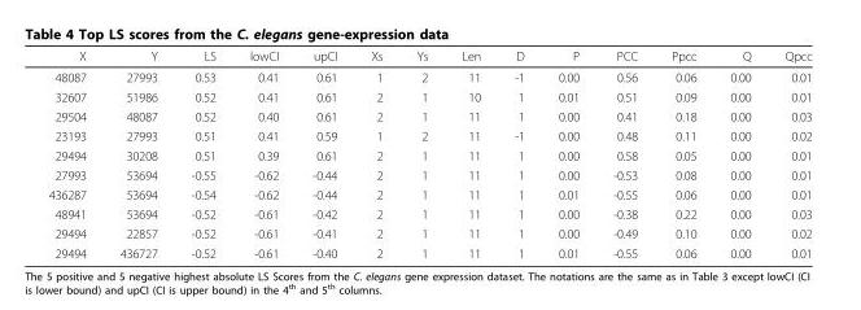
<table><thead><tr><td>X</td><td>Y</td><td>LS</td><td>lowCI</td><td>upCI</td><td>Xs</td><td>Ys</td><td>Len</td><td>D</td><td>P</td><td>PCC</td><td>Ppcc</td><td>Q</td><td>Qpcc</td></tr></thead><tbody><tr><td>48087</td><td>27993</td><td>0.53</td><td>0.41</td><td>0.61</td><td>1</td><td>2</td><td>11</td><td>-1</td><td>0.00</td><td>0.56</td><td>0.06</td><td>0.00</td><td>0.01</td></tr><tr><td>32607</td><td>51986</td><td>0.52</td><td>0.41</td><td>0.61</td><td>2</td><td>1</td><td>10</td><td>1</td><td>0.01</td><td>0.51</td><td>0.09</td><td>0.00</td><td>0.01</td></tr><tr><td>29504</td><td>48087</td><td>0.52</td><td>0.40</td><td>0.61</td><td>2</td><td>1</td><td>11</td><td>1</td><td>0.00</td><td>0.41</td><td>0.18</td><td>0.00</td><td>0.03</td></tr><tr><td>23193</td><td>27993</td><td>0.51</td><td>0.41</td><td>0.59</td><td>1</td><td>2</td><td>11</td><td>-1</td><td>0.00</td><td>0.48</td><td>0.11</td><td>0.00</td><td>0.02</td></tr><tr><td>29494</td><td>30208</td><td>0.51</td><td>0.39</td><td>0.61</td><td>2</td><td>1</td><td>11</td><td>1</td><td>0.00</td><td>0.58</td><td>0.05</td><td>0.00</td><td>0.01</td></tr><tr><td>27993</td><td>53694</td><td>-0.55</td><td>-0.62</td><td>-0.44</td><td>2</td><td>1</td><td>11</td><td>1</td><td>0.00</td><td>-0.53</td><td>0.08</td><td>0.00</td><td>0.01</td></tr><tr><td>436287</td><td>53694</td><td>-0.54</td><td>-0.62</td><td>-0.44</td><td>2</td><td>1</td><td>11</td><td>1</td><td>0.01</td><td>-0.55</td><td>0.06</td><td>0.00</td><td>0.01</td></tr><tr><td>48941</td><td>53694</td><td>-0.52</td><td>-0.61</td><td>-0.42</td><td>2</td><td>1</td><td>11</td><td>1</td><td>0.00</td><td>-0.38</td><td>0.22</td><td>0.00</td><td>0.03</td></tr><tr><td>29494</td><td>22857</td><td>-0.52</td><td>-0.61</td><td>-0.41</td><td>2</td><td>1</td><td>11</td><td>1</td><td>0.00</td><td>-0.49</td><td>0.10</td><td>0.00</td><td>0.02</td></tr><tr><td>29494</td><td>436727</td><td>-0.52</td><td>-0.61</td><td>-0.40</td><td>2</td><td>1</td><td>11</td><td>1</td><td>0.01</td><td>-0.55</td><td>0.06</td><td>0.00</td><td>0.01</td></tr></tbody></table>